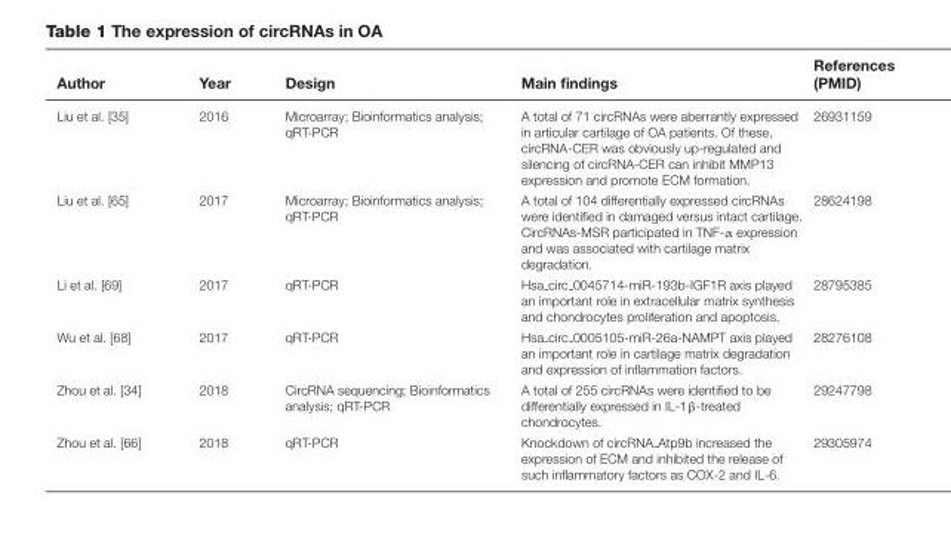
<table><thead><tr><td>Author</td><td>Year</td><td>Design</td><td>Main findings</td><td>References (PMID)</td></tr></thead><tbody><tr><td>Liu et al. [35]</td><td>2016</td><td>Microarray; Bioinformatics analysis; qRT-PCR</td><td>A total of 71 circRNAs were aberrantly expressed in articular cartilage of OA patients. Of these, circRNA-CER was obviously up-regulated and silencing of circRNA-CER can inhibit MMP13 expression and promote ECM formation.</td><td>26931159</td></tr><tr><td>Liu et al. [65]</td><td>2017</td><td>Microarray; Bioinformatics analysis; qRT-PCR</td><td>A total of 104 differentially expressed circRNAs were identified in damaged versus intact cartilage. CircRNAs-MSR participated in TNF-α expression and was associated with cartilage matrix degradation.</td><td>28624198</td></tr><tr><td>Li et al. [69]</td><td>2017</td><td>qRT-PCR</td><td>Hsa <sub>circ</sub> 0045714-miR-193b-IGF1R axis played an important role in extracellular matrix synthesis and chondrocytes proliferation and apoptosis.</td><td>28795385</td></tr><tr><td>Wu et al. [68]</td><td>2017</td><td>qRT-PCR</td><td>Hsa <sub>circ</sub> 0005105-miR-26a-NAMPT axis played an important role in cartilage matrix degradation and expression of inflammation factors.</td><td>28276108</td></tr><tr><td>Zhou et al. [34]</td><td>2018</td><td>CircRNA sequencing; Bioinformatics analysis; qRT-PCR</td><td>A total of 255 circRNAs were identified to be differentially expressed in IL-1β-treated chondrocytes.</td><td>29247798</td></tr><tr><td>Zhou et al. [66]</td><td>2018</td><td>qRT-PCR</td><td>Knockdown of circRNA Atp9b increased the expression of ECM and inhibited the release of such inflammatory factors as COX-2 and IL-6.</td><td>29305974</td></tr></tbody></table>